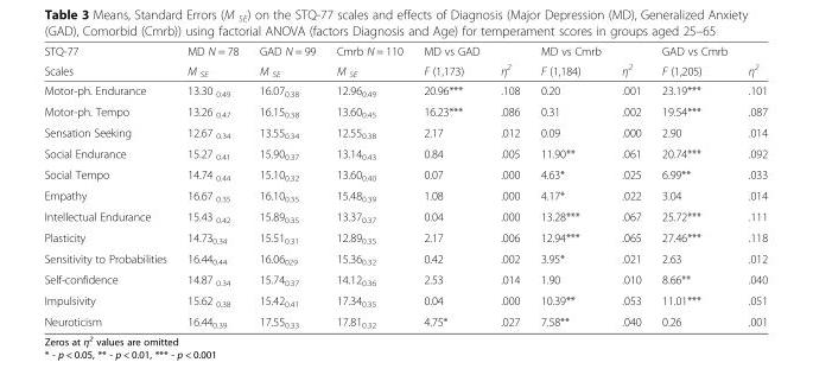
<table><thead><tr><td rowspan="2">STQ-77 Scales</td><td rowspan="2">MD N = 78 M <sub>SE</sub></td><td rowspan="2">GAD N = 99 M <sub>SE</sub></td><td rowspan="2">Cmrb N = 110 M <sub>SE</sub></td><td rowspan="2">MD vs GAD F (1,173)</td><td rowspan="2">η<sup>2</sup></td><td rowspan="2">MD vs Cmrb F (1,184)</td><td rowspan="2">η<sup>2</sup></td><td rowspan="2">GAD vs Cmrb F (1,205)</td><td rowspan="2">η<sup>2</sup></td></tr><tr></tr></thead><tbody><tr><td>Motor-ph. Endurance</td><td>13.30 <sub>0.49</sub></td><td>16.07<sub>0.38</sub></td><td>12.96<sub>0.49</sub></td><td>20.96***</td><td>.108</td><td>0.20</td><td>.001</td><td>23.19***</td><td>.101</td></tr><tr><td>Motor-ph. Tempo</td><td>13.26 <sub>0.47</sub></td><td>16.15<sub>0.38</sub></td><td>13.60<sub>0.45</sub></td><td>16.23***</td><td>.086</td><td>0.31</td><td>.002</td><td>19.54***</td><td>.087</td></tr><tr><td>Sensation Seeking</td><td>12.67 <sub>0.34</sub></td><td>13.55<sub>0.34</sub></td><td>12.55<sub>0.38</sub></td><td>2.17</td><td>.012</td><td>0.09</td><td>.000</td><td>2.90</td><td>.014</td></tr><tr><td>Social Endurance</td><td>15.27 <sub>0.41</sub></td><td>15.90<sub>0.37</sub></td><td>13.14<sub>0.43</sub></td><td>0.84</td><td>.005</td><td>11.90**</td><td>.061</td><td>20.74***</td><td>.092</td></tr><tr><td>Social Tempo</td><td>14.74 <sub>0.44</sub></td><td>15.10<sub>0.32</sub></td><td>13.60<sub>0.40</sub></td><td>0.07</td><td>.000</td><td>4.63*</td><td>.025</td><td>6.99**</td><td>.033</td></tr><tr><td>Empathy</td><td>16.67 <sub>0.35</sub></td><td>16.10<sub>0.35</sub></td><td>15.48<sub>0.39</sub></td><td>1.08</td><td>.000</td><td>4.17*</td><td>.022</td><td>3.04</td><td>.014</td></tr><tr><td>Intellectual Endurance</td><td>15.43 <sub>0.42</sub></td><td>15.89<sub>0.35</sub></td><td>13.37<sub>0.37</sub></td><td>0.04</td><td>.000</td><td>13.28***</td><td>.067</td><td>25.72***</td><td>.111</td></tr><tr><td>Plasticity</td><td>14.73<sub>0.34</sub></td><td>15.51<sub>0.31</sub></td><td>12.89<sub>0.35</sub></td><td>2.17</td><td>.006</td><td>12.94***</td><td>.065</td><td>27.46***</td><td>.118</td></tr><tr><td>Sensitivity to Probabilities</td><td>16.44<sub>0.44</sub></td><td>16.06<sub>029</sub></td><td>15.36<sub>0.32</sub></td><td>0.42</td><td>.002</td><td>3.95*</td><td>.021</td><td>2.63</td><td>.012</td></tr><tr><td>Self-confidence</td><td>14.87 <sub>0.34</sub></td><td>15.74<sub>0.37</sub></td><td>14.12<sub>0.36</sub></td><td>2.53</td><td>.014</td><td>1.90</td><td>.010</td><td>8.66**</td><td>.040</td></tr><tr><td>Impulsivity</td><td>15.62 <sub>0.38</sub></td><td>15.42<sub>0.41</sub></td><td>17.34<sub>0.35</sub></td><td>0.04</td><td>.000</td><td>10.39**</td><td>.053</td><td>11.01***</td><td>.051</td></tr><tr><td>Neuroticism</td><td>16.44<sub>0.39</sub></td><td>17.55<sub>0.33</sub></td><td>17.81<sub>0.32</sub></td><td>4.75*</td><td>.027</td><td>7.58**</td><td>.040</td><td>0.26</td><td>.001</td></tr></tbody></table>